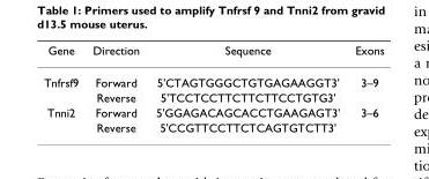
<table><thead><tr><td>Gene</td><td>Direction</td><td>Sequence</td><td>Exons</td></tr></thead><tbody><tr><td rowspan="2">Tnfrsf9</td><td>Forward</td><td>5&#x27;CTAGTGGGCTGTGAGAAGGT3&#x27;</td><td>3–9</td></tr><tr><td>Reverse</td><td>5&#x27;TCCTCCTTCTTCTTCCTGTG3&#x27;</td><td></td></tr><tr><td rowspan="2">Tnni2</td><td>Forward</td><td>5&#x27;GGAGACAGCACCTGAAGAGT3&#x27;</td><td>3–6</td></tr><tr><td>Reverse</td><td>5&#x27;CCGTTCCTTCTCAGTGTCTT3&#x27;</td><td></td></tr></tbody></table>